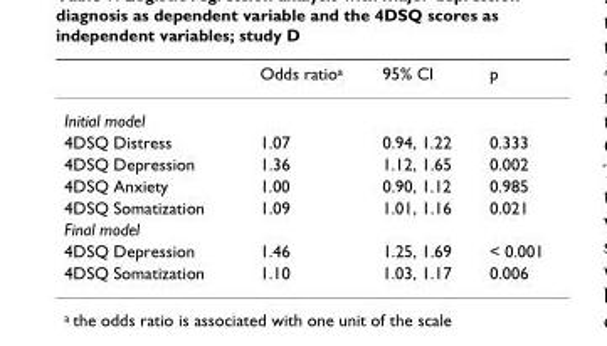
<table><thead><tr><td></td><td>Odds ratio<sup>a</sup></td><td>95% CI</td><td>p</td></tr></thead><tbody><tr><td colspan="4">Initial model</td></tr><tr><td>4DSQ Distress</td><td>1.07</td><td>0.94, 1.22</td><td>0.333</td></tr><tr><td>4DSQ Depression</td><td>1.36</td><td>1.12, 1.65</td><td>0.002</td></tr><tr><td>4DSQ Anxiety</td><td>1.00</td><td>0.90, 1.12</td><td>0.985</td></tr><tr><td>4DSQ Somatization</td><td>1.09</td><td>1.01, 1.16</td><td>0.021</td></tr><tr><td colspan="4">Final model</td></tr><tr><td>4DSQ Depression</td><td>1.46</td><td>1.25, 1.69</td><td>&lt; 0.001</td></tr><tr><td>4DSQ Somatization</td><td>1.10</td><td>1.03, 1.17</td><td>0.006</td></tr></tbody></table>